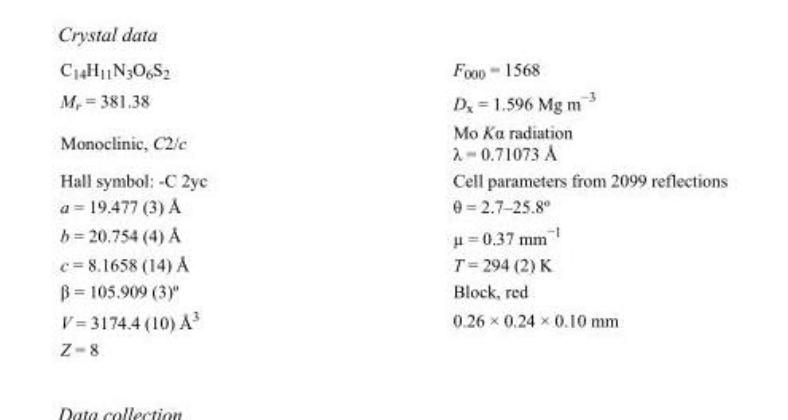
<table><tbody><tr><td>C<sub>14</sub>H<sub>11</sub>N<sub>3</sub>O<sub>6</sub>S<sub>2</sub></td><td>F<sub>000</sub> = 1568</td></tr><tr><td>M<sub>r</sub> = 381.38</td><td>D<sub>x</sub> = 1.596 Mg m<sup>−3</sup></td></tr><tr><td>Monoclinic, C2/c</td><td>Mo Kα radiation λ = 0.71073 Å</td></tr><tr><td>Hall symbol: -C 2yc</td><td>Cell parameters from 2099 reflections</td></tr><tr><td>a = 19.477 (3) Å</td><td>θ = 2.7–25.8º</td></tr><tr><td>b = 20.754 (4) Å</td><td>µ = 0.37 mm<sup>−1</sup></td></tr><tr><td>c = 8.1658 (14) Å</td><td>T = 294 (2) K</td></tr><tr><td>β = 105.909 (3)º</td><td>Block, red</td></tr><tr><td>V = 3174.4 (10) Å<sup>3</sup></td><td>0.26 × 0.24 × 0.10 mm</td></tr><tr><td>Z = 8</td><td></td></tr></tbody></table>